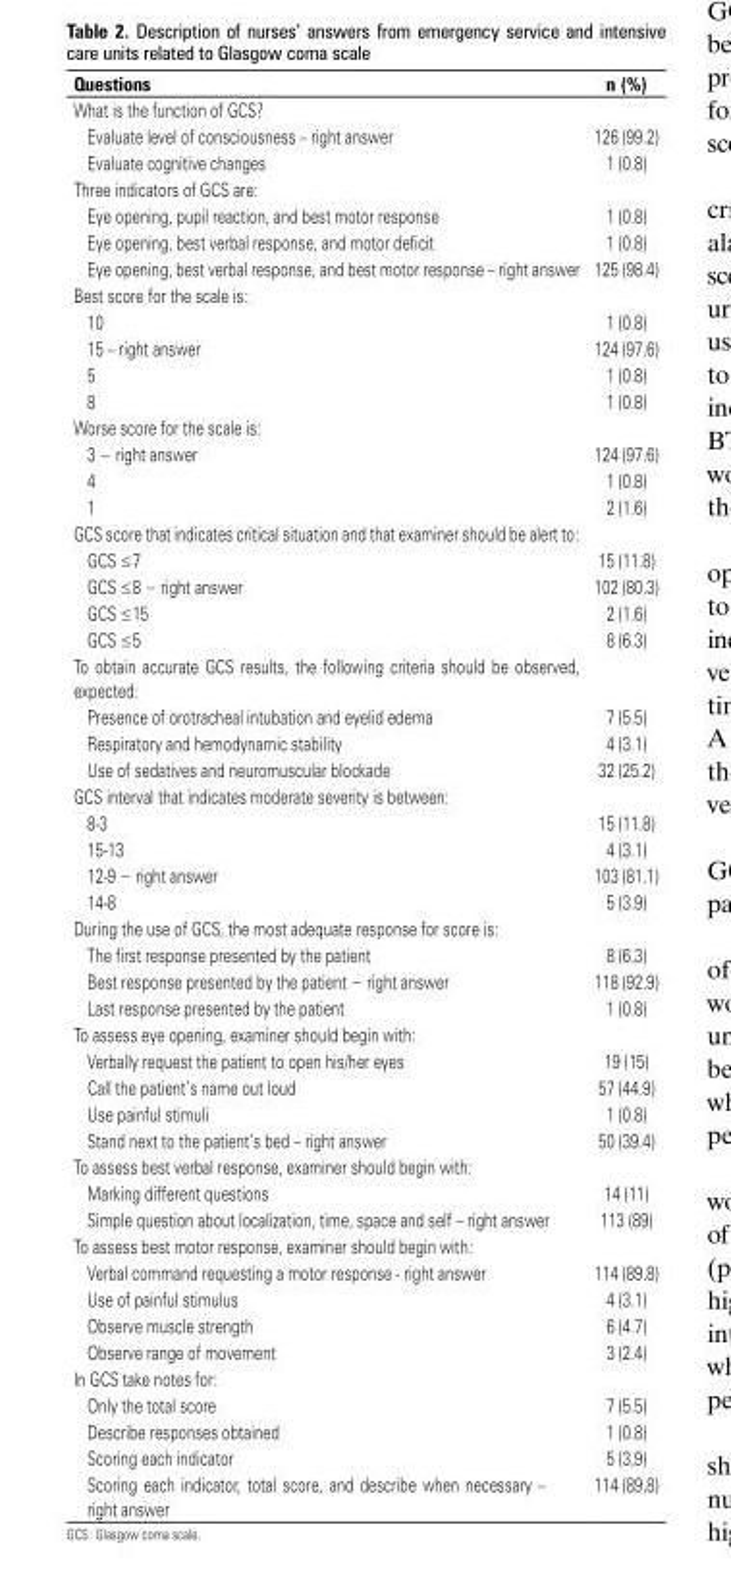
<table><thead><tr><td>Questions</td><td>n (%)</td></tr></thead><tbody><tr><td colspan="2">What is the function of GCS?</td></tr><tr><td>Evaluate level of consciousness – right answer</td><td>126 (99.2)</td></tr><tr><td>Evaluate cognitive changes</td><td>1 (0.8)</td></tr><tr><td colspan="2">Three indicators of GCS are:</td></tr><tr><td>Eye opening, pupil reaction, and best motor response</td><td>1 (0.8)</td></tr><tr><td>Eye opening, best verbal response, and motor deficit</td><td>1 (0.8)</td></tr><tr><td>Eye opening, best verbal response, and best motor response – right answer</td><td>125 (98.4)</td></tr><tr><td colspan="2">Best score for the scale is:</td></tr><tr><td>10</td><td>1 (0.8)</td></tr><tr><td>15 – right answer</td><td>124 (97.6)</td></tr><tr><td>5</td><td>1 (0.8)</td></tr><tr><td>8</td><td>1 (0.8)</td></tr><tr><td colspan="2">Worse score for the scale is:</td></tr><tr><td>3 − right answer</td><td>124 (97.6)</td></tr><tr><td>4</td><td>1 (0.8)</td></tr><tr><td>1</td><td>2 (1.6)</td></tr><tr><td colspan="2">GCS score that indicates critical situation and that examiner should be alert to:</td></tr><tr><td>GCS ≤7</td><td>15 (11.8)</td></tr><tr><td>GCS ≤8 − right answer</td><td>102 (80.3)</td></tr><tr><td>GCS ≤15</td><td>2 (1.6)</td></tr><tr><td>GCS ≤5</td><td>8 (6.3)</td></tr><tr><td colspan="2">To obtain accurate GCS results, the following criteria should be observed, expected:</td></tr><tr><td>Presence of orotracheal intubation and eyelid edema</td><td>7 (5.5)</td></tr><tr><td>Respiratory and hemodynamic stability</td><td>4 (3.1)</td></tr><tr><td>Use of sedatives and neuromuscular blockade</td><td>32 (25.2)</td></tr><tr><td colspan="2">GCS interval that indicates moderate severity is between:</td></tr><tr><td>8-3</td><td>15 (11.8)</td></tr><tr><td>15-13</td><td>4 (3.1)</td></tr><tr><td>12-9 − right answer</td><td>103 (81.1)</td></tr><tr><td>14-8</td><td>5 (3.9)</td></tr><tr><td colspan="2">During the use of GCS, the most adequate response for score is:</td></tr><tr><td>The first response presented by the patient</td><td>8 (6.3)</td></tr><tr><td>Best response presented by the patient − right answer</td><td>118 (92.9)</td></tr><tr><td>Last response presented by the patient</td><td>1 (0.8)</td></tr><tr><td colspan="2">To assess eye opening, examiner should begin with:</td></tr><tr><td>Verbally request the patient to open his/her eyes</td><td>19 (15)</td></tr><tr><td>Call the patient’s name out loud</td><td>57 (44.9)</td></tr><tr><td>Use painful stimuli</td><td>1 (0.8)</td></tr><tr><td>Stand next to the patient’s bed – right answer</td><td>50 (39.4)</td></tr><tr><td colspan="2">To assess best verbal response, examiner should begin with:</td></tr><tr><td>Marking different questions</td><td>14 (11)</td></tr><tr><td>Simple question about localization, time, space and self – right answer</td><td>113 (89)</td></tr><tr><td colspan="2">To assess best motor response, examiner should begin with:</td></tr><tr><td>Verbal command requesting a motor response - right answer</td><td>114 (89.8)</td></tr><tr><td>Use of painful stimulus</td><td>4 (3.1)</td></tr><tr><td>Observe muscle strength</td><td>6 (4.7)</td></tr><tr><td>Observe range of movement</td><td>3 (2.4)</td></tr><tr><td colspan="2">In GCS take notes for:</td></tr><tr><td>Only the total score</td><td>7 (5.5)</td></tr><tr><td>Describe responses obtained</td><td>1 (0.8)</td></tr><tr><td>Scoring each indicator</td><td>5 (3,9)</td></tr><tr><td>Scoring each indicator, total score, and describe when necessary – right answer</td><td>114 (89,8)</td></tr></tbody></table>